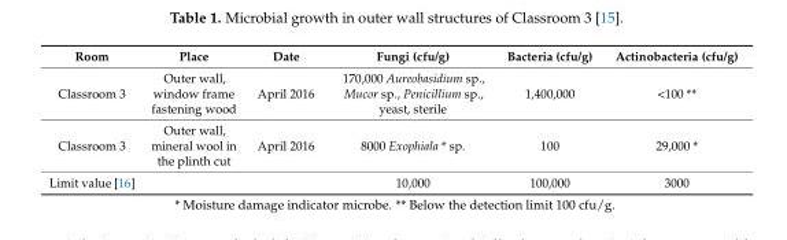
<table><thead><tr><td>Room</td><td>Place</td><td>Date</td><td>Fungi (cfu/g)</td><td>Bacteria (cfu/g)</td><td>Actinobacteria (cfu/g)</td></tr></thead><tbody><tr><td>Classroom 3</td><td>Outer wall, window frame fastening wood</td><td>April 2016</td><td>170,000 Aureobasidium sp., Mucor sp., Penicillium sp., yeast, sterile</td><td>1,400,000</td><td>&lt;100 **</td></tr><tr><td>Classroom 3</td><td>Outer wall, mineral wool in the plinth cut</td><td>April 2016</td><td>8000 Exophiala * sp.</td><td>100</td><td>29,000 *</td></tr><tr><td>Limit value [16]</td><td></td><td></td><td>10,000</td><td>100,000</td><td>3000</td></tr></tbody></table>